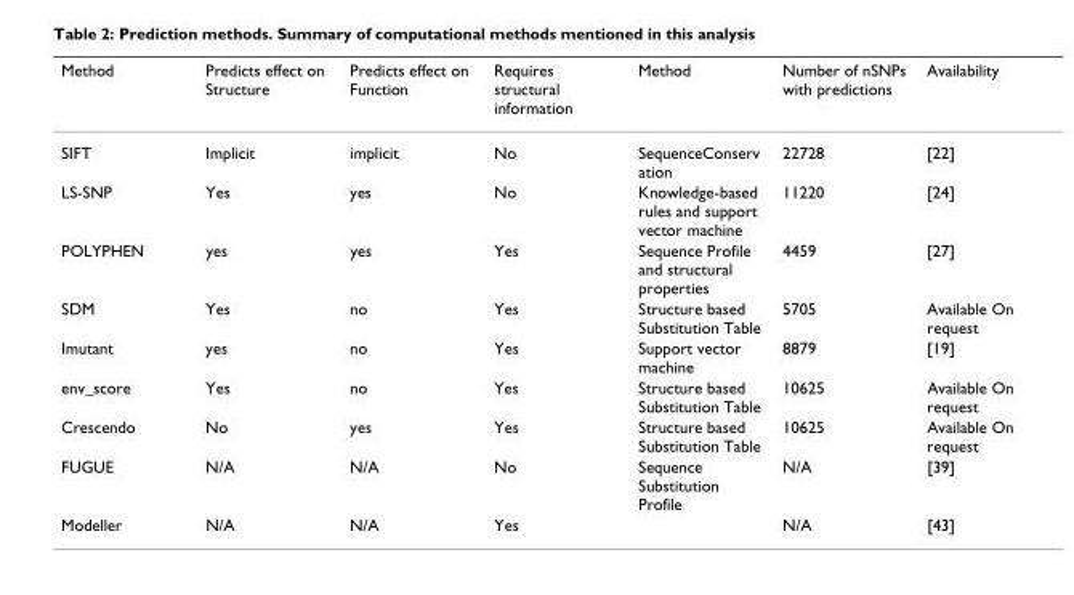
<table><thead><tr><td>Method</td><td>Predicts effect on Structure</td><td>Predicts effect on Function</td><td>Requires structural information</td><td>Method</td><td>Number of nSNPs with predictions</td><td>Availability</td></tr></thead><tbody><tr><td>SIFT</td><td>Implicit</td><td>implicit</td><td>No</td><td>SequenceConserv ation</td><td>22728</td><td>[22]</td></tr><tr><td>LS-SNP</td><td>Yes</td><td>yes</td><td>No</td><td>Knowledge-based rules and support vector machine</td><td>11220</td><td>[24]</td></tr><tr><td>POLYPHEN</td><td>yes</td><td>yes</td><td>Yes</td><td>Sequence Profile and structural properties</td><td>4459</td><td>[27]</td></tr><tr><td>SDM</td><td>Yes</td><td>no</td><td>Yes</td><td>Structure based Substitution Table</td><td>5705</td><td>Available On request</td></tr><tr><td>Imutant</td><td>yes</td><td>no</td><td>Yes</td><td>Support vector machine</td><td>8879</td><td>[19]</td></tr><tr><td>env_score</td><td>Yes</td><td>no</td><td>Yes</td><td>Structure based Substitution Table</td><td>10625</td><td>Available On request</td></tr><tr><td>Crescendo</td><td>No</td><td>yes</td><td>Yes</td><td>Structure based Substitution Table</td><td>10625</td><td>Available On request</td></tr><tr><td>FUGUE</td><td>N/A</td><td>N/A</td><td>No</td><td>Sequence Substitution Profile</td><td>N/A</td><td>[39]</td></tr><tr><td>Modeller</td><td>N/A</td><td>N/A</td><td>Yes</td><td></td><td>N/A</td><td>[43]</td></tr></tbody></table>